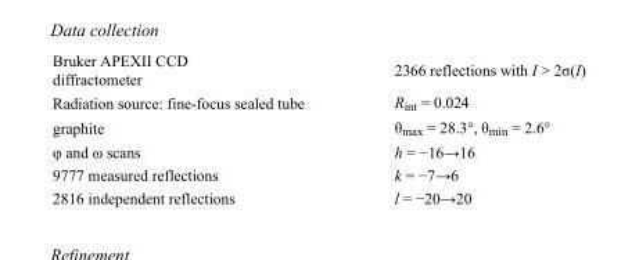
<table><tbody><tr><td>Bruker APEXII CCD diffractometer</td><td>2366 reflections with I &gt; 2σ(I)</td></tr><tr><td>Radiation source: fine-focus sealed tube</td><td>R<sub>int</sub> = 0.024</td></tr><tr><td>graphite</td><td>θ<sub>max</sub> = 28.3°, θ<sub>min</sub> = 2.6°</td></tr><tr><td>φ and ω scans</td><td>h = −16→16</td></tr><tr><td>9777 measured reflections</td><td>k = −7→6</td></tr><tr><td>2816 independent reflections</td><td>l = −20→20</td></tr></tbody></table>